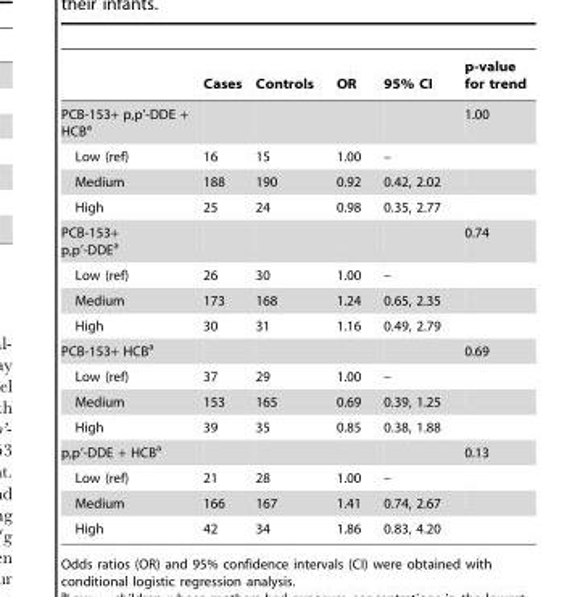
<table><thead><tr><td></td><td>Cases</td><td>Controls</td><td>OR</td><td>95% CI</td><td>p-value for trend</td></tr></thead><tbody><tr><td>PCB-153+ p,p’-DDE + HCB<sup>a</sup></td><td></td><td></td><td></td><td></td><td>1.00</td></tr><tr><td>Low (ref)</td><td>16</td><td>15</td><td>1.00</td><td>–</td><td></td></tr><tr><td>Medium</td><td>188</td><td>190</td><td>0.92</td><td>0.42, 2.02</td><td></td></tr><tr><td>High</td><td>25</td><td>24</td><td>0.98</td><td>0.35, 2.77</td><td></td></tr><tr><td>PCB-153+ p,p’-DDE<sup>a</sup></td><td></td><td></td><td></td><td></td><td>0.74</td></tr><tr><td>Low (ref)</td><td>26</td><td>30</td><td>1.00</td><td>–</td><td></td></tr><tr><td>Medium</td><td>173</td><td>168</td><td>1.24</td><td>0.65, 2.35</td><td></td></tr><tr><td>High</td><td>30</td><td>31</td><td>1.16</td><td>0.49, 2.79</td><td></td></tr><tr><td>PCB-153+ HCB<sup>a</sup></td><td></td><td></td><td></td><td></td><td>0.69</td></tr><tr><td>Low (ref)</td><td>37</td><td>29</td><td>1.00</td><td>–</td><td></td></tr><tr><td>Medium</td><td>153</td><td>165</td><td>0.69</td><td>0.39, 1.25</td><td></td></tr><tr><td>High</td><td>39</td><td>35</td><td>0.85</td><td>0.38, 1.88</td><td></td></tr><tr><td>p,p’-DDE + HCB<sup>a</sup></td><td></td><td></td><td></td><td></td><td>0.13</td></tr><tr><td>Low (ref)</td><td>21</td><td>28</td><td>1.00</td><td>–</td><td></td></tr><tr><td>Medium</td><td>166</td><td>167</td><td>1.41</td><td>0.74, 2.67</td><td></td></tr><tr><td>High</td><td>42</td><td>34</td><td>1.86</td><td>0.83, 4.20</td><td></td></tr></tbody></table>